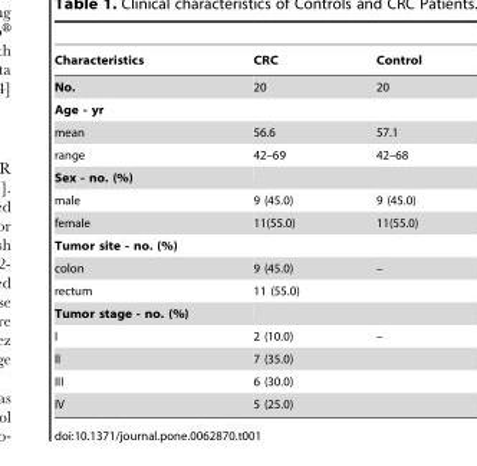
<table><thead><tr><td>Characteristics</td><td>CRC</td><td>Control</td></tr></thead><tbody><tr><td>No.</td><td>20</td><td>20</td></tr><tr><td colspan="3">Age - yr</td></tr><tr><td>mean</td><td>56.6</td><td>57.1</td></tr><tr><td>range</td><td>42–69</td><td>42–68</td></tr><tr><td colspan="3">Sex - no. (%)</td></tr><tr><td>male</td><td>9 (45.0)</td><td>9 (45.0)</td></tr><tr><td>female</td><td>11(55.0)</td><td>11(55.0)</td></tr><tr><td colspan="3">Tumor site - no. (%)</td></tr><tr><td>colon</td><td>9 (45.0)</td><td>–</td></tr><tr><td>rectum</td><td>11 (55.0)</td><td></td></tr><tr><td colspan="3">Tumor stage - no. (%)</td></tr><tr><td>I</td><td>2 (10.0)</td><td>–</td></tr><tr><td>II</td><td>7 (35.0)</td><td></td></tr><tr><td>III</td><td>6 (30.0)</td><td></td></tr><tr><td>IV</td><td>5 (25.0)</td><td></td></tr></tbody></table>